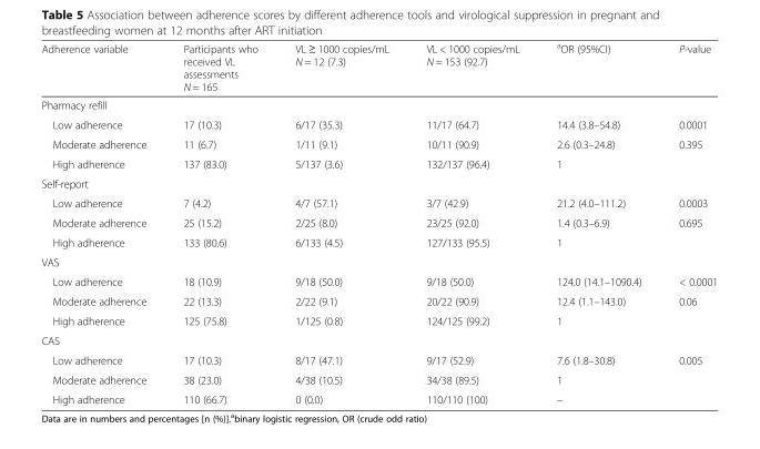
<table><thead><tr><td>Adherence variable</td><td>Participants who received VL assessments N = 165</td><td>VL ≥ 1000 copies/mL N = 12 (7.3)</td><td>VL &lt; 1000 copies/mL N = 153 (92.7)</td><td><sup>a</sup>OR (95%CI)</td><td>P-value</td></tr></thead><tbody><tr><td colspan="6">Pharmacy refill</td></tr><tr><td>Low adherence</td><td>17 (10.3)</td><td>6/17 (35.3)</td><td>11/17 (64.7)</td><td>14.4 (3.8–54.8)</td><td>0.0001</td></tr><tr><td>Moderate adherence</td><td>11 (6.7)</td><td>1/11 (9.1)</td><td>10/11 (90.9)</td><td>2.6 (0.3–24.8)</td><td>0.395</td></tr><tr><td>High adherence</td><td>137 (83.0)</td><td>5/137 (3.6)</td><td>132/137 (96.4)</td><td>1</td><td></td></tr><tr><td colspan="6">Self-report</td></tr><tr><td>Low adherence</td><td>7 (4.2)</td><td>4/7 (57.1)</td><td>3/7 (42.9)</td><td>21.2 (4.0–111.2)</td><td>0.0003</td></tr><tr><td>Moderate adherence</td><td>25 (15.2)</td><td>2/25 (8.0)</td><td>23/25 (92.0)</td><td>1.4 (0.3–6.9)</td><td>0.695</td></tr><tr><td>High adherence</td><td>133 (80.6)</td><td>6/133 (4.5)</td><td>127/133 (95.5)</td><td>1</td><td></td></tr><tr><td colspan="6">VAS</td></tr><tr><td>Low adherence</td><td>18 (10.9)</td><td>9/18 (50.0)</td><td>9/18 (50.0)</td><td>124.0 (14.1–1090.4)</td><td>&lt; 0.0001</td></tr><tr><td>Moderate adherence</td><td>22 (13.3)</td><td>2/22 (9.1)</td><td>20/22 (90.9)</td><td>12.4 (1.1–143.0)</td><td>0.06</td></tr><tr><td>High adherence</td><td>125 (75.8)</td><td>1/125 (0.8)</td><td>124/125 (99.2)</td><td>1</td><td></td></tr><tr><td colspan="6">CAS</td></tr><tr><td>Low adherence</td><td>17 (10.3)</td><td>8/17 (47.1)</td><td>9/17 (52.9)</td><td>7.6 (1.8–30.8)</td><td>0.005</td></tr><tr><td>Moderate adherence</td><td>38 (23.0)</td><td>4/38 (10.5)</td><td>34/38 (89.5)</td><td>1</td><td></td></tr><tr><td>High adherence</td><td>110 (66.7)</td><td>0 (0.0)</td><td>110/110 (100)</td><td>–</td><td></td></tr></tbody></table>